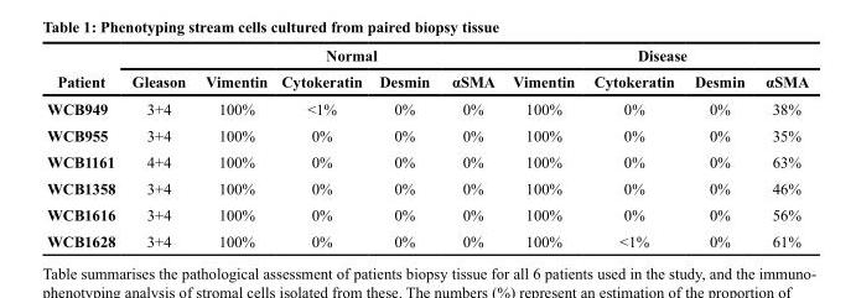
<table><thead><tr><td rowspan="2">Patient</td><td colspan="6">Normal</td><td colspan="3">Disease</td></tr><tr><td>Gleason</td><td>Vimentin</td><td>Cytokeratin</td><td>Desmin</td><td>αSMA</td><td>Vimentin</td><td>Cytokeratin</td><td>Desmin</td><td>αSMA</td></tr></thead><tbody><tr><td>WCB949</td><td>3+4</td><td>100%</td><td>&lt;1%</td><td>0%</td><td>0%</td><td>100%</td><td>0%</td><td>0%</td><td>38%</td></tr><tr><td>WCB955</td><td>3+4</td><td>100%</td><td>0%</td><td>0%</td><td>0%</td><td>100%</td><td>0%</td><td>0%</td><td>35%</td></tr><tr><td>WCB1161</td><td>4+4</td><td>100%</td><td>0%</td><td>0%</td><td>0%</td><td>100%</td><td>0%</td><td>0%</td><td>63%</td></tr><tr><td>WCB1358</td><td>3+4</td><td>100%</td><td>0%</td><td>0%</td><td>0%</td><td>100%</td><td>0%</td><td>0%</td><td>46%</td></tr><tr><td>WCB1616</td><td>3+4</td><td>100%</td><td>0%</td><td>0%</td><td>0%</td><td>100%</td><td>0%</td><td>0%</td><td>56%</td></tr><tr><td>WCB1628</td><td>3+4</td><td>100%</td><td>0%</td><td>0%</td><td>0%</td><td>100%</td><td>&lt;1%</td><td>0%</td><td>61%</td></tr></tbody></table>